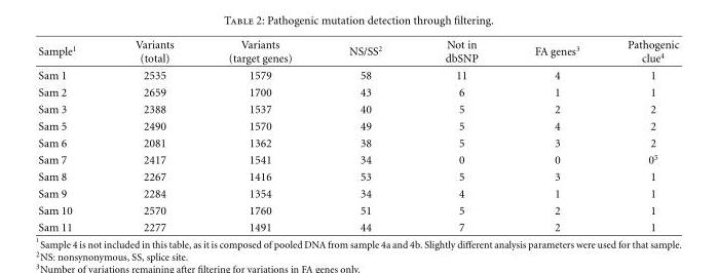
<table><thead><tr><td>Sample<sup>1</sup></td><td>Variants (total)</td><td>Variants (target genes)</td><td>NS/SS<sup>2</sup></td><td>Not in dbSNP</td><td>FA genes<sup>3</sup></td><td>Pathogenic clue<sup>4</sup></td></tr></thead><tbody><tr><td>Sam 1</td><td>2535</td><td>1579</td><td>58</td><td>11</td><td>4</td><td>1</td></tr><tr><td>Sam 2</td><td>2659</td><td>1700</td><td>43</td><td>6</td><td>1</td><td>1</td></tr><tr><td>Sam 3</td><td>2388</td><td>1537</td><td>40</td><td>5</td><td>2</td><td>2</td></tr><tr><td>Sam 5</td><td>2490</td><td>1570</td><td>49</td><td>5</td><td>4</td><td>2</td></tr><tr><td>Sam 6</td><td>2081</td><td>1362</td><td>38</td><td>5</td><td>3</td><td>2</td></tr><tr><td>Sam 7</td><td>2417</td><td>1541</td><td>34</td><td>0</td><td>0</td><td>0<sup>5</sup></td></tr><tr><td>Sam 8</td><td>2267</td><td>1416</td><td>53</td><td>5</td><td>3</td><td>1</td></tr><tr><td>Sam 9</td><td>2284</td><td>1354</td><td>34</td><td>4</td><td>1</td><td>1</td></tr><tr><td>Sam 10</td><td>2570</td><td>1760</td><td>51</td><td>5</td><td>2</td><td>1</td></tr><tr><td>Sam 11</td><td>2277</td><td>1491</td><td>44</td><td>7</td><td>2</td><td>1</td></tr></tbody></table>